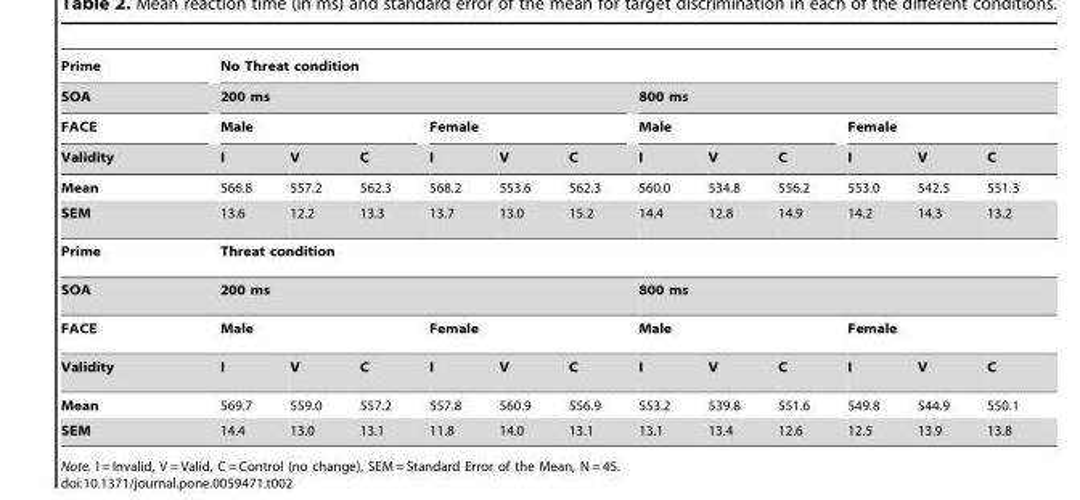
<table><thead><tr><td rowspan="4">Prime SOA FACE Validity</td><td colspan="12">No Threat condition</td></tr><tr><td colspan="6">200 ms</td><td colspan="6">800 ms</td></tr><tr><td colspan="3">Male</td><td colspan="3">Female</td><td colspan="3">Male</td><td colspan="3">Female</td></tr><tr><td>I</td><td>V</td><td>C</td><td>I</td><td>V</td><td>C</td><td>I</td><td>V</td><td>C</td><td>I</td><td>V</td><td>C</td></tr></thead><tbody><tr><td>Mean</td><td>566.8</td><td>557.2</td><td>562.3</td><td>568.2</td><td>553.6</td><td>562.3</td><td>560.0</td><td>534.8</td><td>556.2</td><td>553.0</td><td>542.5</td><td>551.3</td></tr><tr><td>SEM</td><td>13.6</td><td>12.2</td><td>13.3</td><td>13.7</td><td>13.0</td><td>15.2</td><td>14.4</td><td>12.8</td><td>14.9</td><td>14.2</td><td>14.3</td><td>13.2</td></tr><tr><td>Prime</td><td colspan="12">Threat condition</td></tr><tr><td>SOA</td><td colspan="6">200 ms</td><td colspan="6">800 ms</td></tr><tr><td>FACE</td><td colspan="3">Male</td><td colspan="3">Female</td><td colspan="3">Male</td><td colspan="3">Female</td></tr><tr><td>Validity</td><td>I</td><td>V</td><td>C</td><td>I</td><td>V</td><td>C</td><td>I</td><td>V</td><td>C</td><td>I</td><td>V</td><td>C</td></tr><tr><td>Mean</td><td>569.7</td><td>559.0</td><td>557.2</td><td>557.8</td><td>560.9</td><td>556.9</td><td>553.2</td><td>539.8</td><td>551.6</td><td>549.8</td><td>544.9</td><td>550.1</td></tr><tr><td>SEM</td><td>14.4</td><td>13.0</td><td>13.1</td><td>11.8</td><td>14.0</td><td>13.1</td><td>13.1</td><td>13.4</td><td>12.6</td><td>12.5</td><td>13.9</td><td>13.8</td></tr></tbody></table>